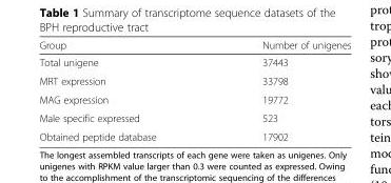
<table><thead><tr><td>Group</td><td>Number of unigenes</td></tr></thead><tbody><tr><td>Total unigene</td><td>37443</td></tr><tr><td>MRT expression</td><td>33798</td></tr><tr><td>MAG expression</td><td>19772</td></tr><tr><td>Male specific expressed</td><td>523</td></tr><tr><td>Obtained peptide database</td><td>17902</td></tr></tbody></table>